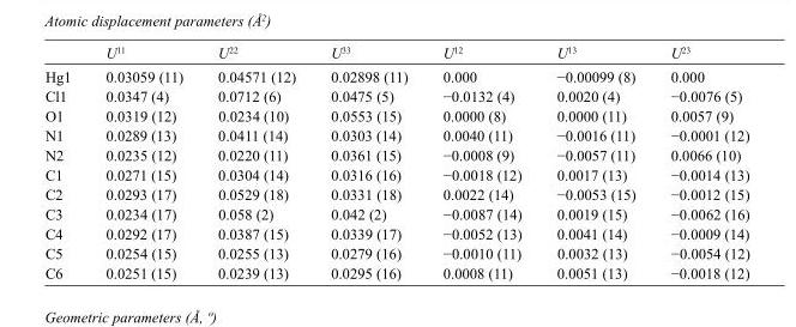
<table><thead><tr><td></td><td>U<sup>11</sup></td><td>U<sup>22</sup></td><td>U<sup>33</sup></td><td>U<sup>12</sup></td><td>U<sup>13</sup></td><td>U<sup>23</sup></td></tr></thead><tbody><tr><td>Hg1</td><td>0.03059 (11)</td><td>0.04571 (12)</td><td>0.02898 (11)</td><td>0.000</td><td>−0.00099 (8)</td><td>0.000</td></tr><tr><td>Cl1</td><td>0.0347 (4)</td><td>0.0712 (6)</td><td>0.0475 (5)</td><td>−0.0132 (4)</td><td>0.0020 (4)</td><td>−0.0076 (5)</td></tr><tr><td>O1</td><td>0.0319 (12)</td><td>0.0234 (10)</td><td>0.0553 (15)</td><td>0.0000 (8)</td><td>0.0000 (11)</td><td>0.0057 (9)</td></tr><tr><td>N1</td><td>0.0289 (13)</td><td>0.0411 (14)</td><td>0.0303 (14)</td><td>0.0040 (11)</td><td>−0.0016 (11)</td><td>−0.0001 (12)</td></tr><tr><td>N2</td><td>0.0235 (12)</td><td>0.0220 (11)</td><td>0.0361 (15)</td><td>−0.0008 (9)</td><td>−0.0057 (11)</td><td>0.0066 (10)</td></tr><tr><td>C1</td><td>0.0271 (15)</td><td>0.0304 (14)</td><td>0.0316 (16)</td><td>−0.0018 (12)</td><td>0.0017 (13)</td><td>−0.0014 (13)</td></tr><tr><td>C2</td><td>0.0293 (17)</td><td>0.0529 (18)</td><td>0.0331 (18)</td><td>0.0022 (14)</td><td>−0.0053 (15)</td><td>−0.0012 (15)</td></tr><tr><td>C3</td><td>0.0234 (17)</td><td>0.058 (2)</td><td>0.042 (2)</td><td>−0.0087 (14)</td><td>0.0019 (15)</td><td>−0.0062 (16)</td></tr><tr><td>C4</td><td>0.0292 (17)</td><td>0.0387 (15)</td><td>0.0339 (17)</td><td>−0.0052 (13)</td><td>0.0041 (14)</td><td>−0.0009 (14)</td></tr><tr><td>C5</td><td>0.0254 (15)</td><td>0.0255 (13)</td><td>0.0279 (16)</td><td>−0.0010 (11)</td><td>0.0032 (13)</td><td>−0.0054 (12)</td></tr><tr><td>C6</td><td>0.0251 (15)</td><td>0.0239 (13)</td><td>0.0295 (16)</td><td>0.0008 (11)</td><td>0.0051 (13)</td><td>−0.0018 (12)</td></tr></tbody></table>